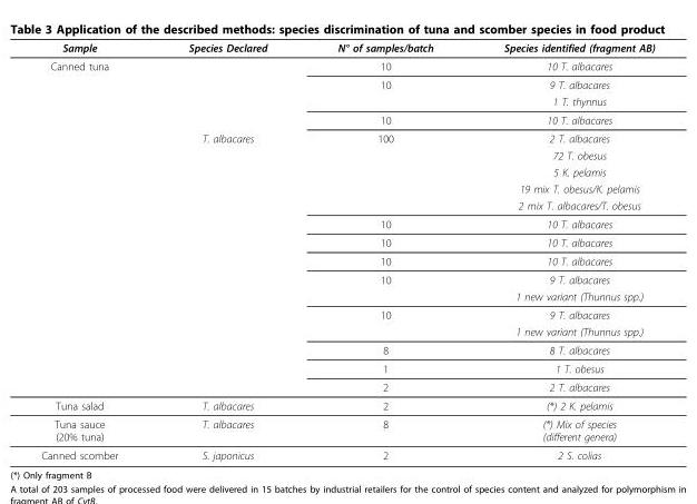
<table><thead><tr><td>Sample</td><td>Species Declared</td><td>N° of samples/batch</td><td>Species identified (fragment AB)</td></tr></thead><tbody><tr><td rowspan="19">Canned tuna</td><td></td><td>10</td><td>10 T. albacares</td></tr><tr><td></td><td>10</td><td>9 T. albacares</td></tr><tr><td></td><td></td><td>1 T. thynnus</td></tr><tr><td></td><td>10</td><td>10 T. albacares</td></tr><tr><td>T. albacares</td><td>100</td><td>2 T. albacares</td></tr><tr><td></td><td></td><td>72 T. obesus</td></tr><tr><td></td><td></td><td>5 K. pelamis</td></tr><tr><td></td><td></td><td>19 mix T. obesus/K. pelamis</td></tr><tr><td></td><td></td><td>2 mix T. albacares/T. obesus</td></tr><tr><td></td><td>10</td><td>10 T. albacares</td></tr><tr><td></td><td>10</td><td>10 T. albacares</td></tr><tr><td></td><td>10</td><td>10 T. albacares</td></tr><tr><td></td><td>10</td><td>9 T. albacares</td></tr><tr><td></td><td></td><td>1 new variant (Thunnus spp.)</td></tr><tr><td></td><td>10</td><td>9 T. albacares</td></tr><tr><td></td><td></td><td>1 new variant (Thunnus spp.)</td></tr><tr><td></td><td>8</td><td>8 T. albacares</td></tr><tr><td></td><td>1</td><td>1 T. obesus</td></tr><tr><td></td><td>2</td><td>2 T. albacares</td></tr><tr><td>Tuna salad</td><td>T. albacares</td><td>2</td><td>(*) 2 K. pelamis</td></tr><tr><td>Tuna sauce (20% tuna)</td><td>T. albacares</td><td>8</td><td>(*) Mix of species (different genera)</td></tr><tr><td>Canned scomber</td><td>S. japonicus</td><td>2</td><td>2 S. colias</td></tr></tbody></table>